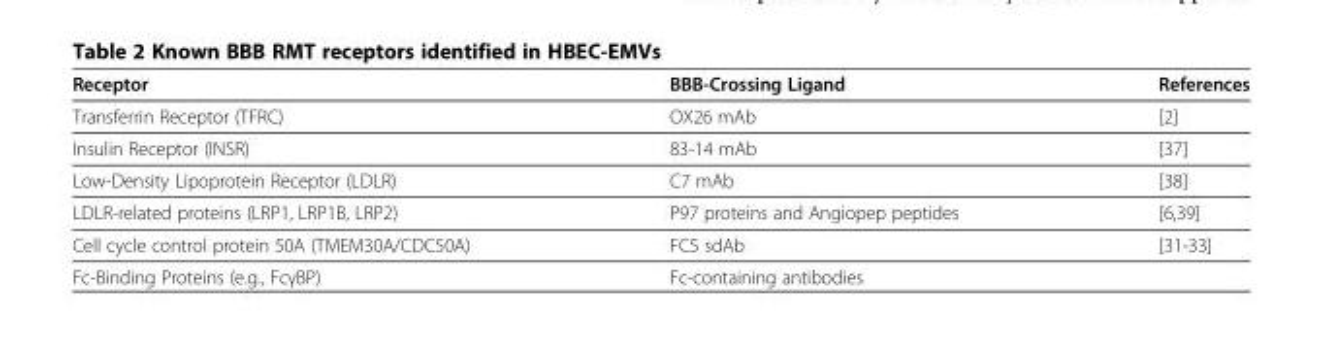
<table><thead><tr><td>Receptor</td><td>BBB-Crossing Ligand</td><td>References</td></tr></thead><tbody><tr><td>Transferrin Receptor (TFRC)</td><td>OX26 mAb</td><td>[2]</td></tr><tr><td>Insulin Receptor (INSR)</td><td>83-14 mAb</td><td>[37]</td></tr><tr><td>Low-Density Lipoprotein Receptor (LDLR)</td><td>C7 mAb</td><td>[38]</td></tr><tr><td>LDLR-related proteins (LRP1, LRP1B, LRP2)</td><td>P97 proteins and Angiopep peptides</td><td>[6,39]</td></tr><tr><td>Cell cycle control protein 50A (TMEM30A/CDC50A)</td><td>FC5 sdAb</td><td>[31-33]</td></tr><tr><td>Fc-Binding Proteins (e.g., FcγBP)</td><td>Fc-containing antibodies</td><td></td></tr></tbody></table>